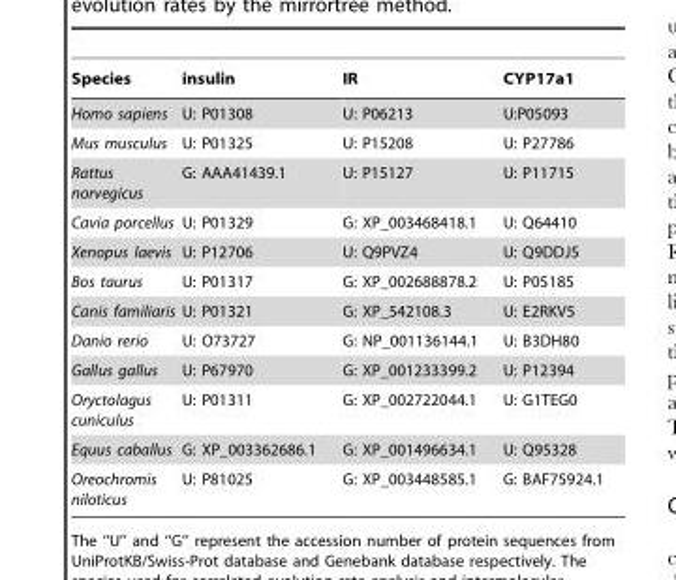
<table><thead><tr><td>Species</td><td>insulin</td><td>IR</td><td>CYP17a1</td></tr></thead><tbody><tr><td>Homo sapiens</td><td>U: P01308</td><td>U: P06213</td><td>U:P05093</td></tr><tr><td>Mus musculus</td><td>U: P01325</td><td>U: P15208</td><td>U: P27786</td></tr><tr><td>Rattus norvegicus</td><td>G: AAA41439.1</td><td>U: P15127</td><td>U: P11715</td></tr><tr><td>Cavia porcellus</td><td>U: P01329</td><td>G: XP_003468418.1</td><td>U: Q64410</td></tr><tr><td>Xenopus laevis</td><td>U: P12706</td><td>U: Q9PVZ4</td><td>U: Q9DDJ5</td></tr><tr><td>Bos taurus</td><td>U: P01317</td><td>G: XP_002688878.2</td><td>U: P05185</td></tr><tr><td>Canis familiaris</td><td>U: P01321</td><td>G: XP_542108.3</td><td>U: E2RKV5</td></tr><tr><td>Danio rerio</td><td>U: O73727</td><td>G: NP_001136144.1</td><td>U: B3DH80</td></tr><tr><td>Gallus gallus</td><td>U: P67970</td><td>G: XP_001233399.2</td><td>U: P12394</td></tr><tr><td>Oryctolagus cuniculus</td><td>U: P01311</td><td>G: XP_002722044.1</td><td>U: G1TEG0</td></tr><tr><td>Equus caballus</td><td>G: XP_003362686.1</td><td>G: XP_001496634.1</td><td>U: Q95328</td></tr><tr><td>Oreochromis niloticus</td><td>U: P81025</td><td>G: XP_003448585.1</td><td>G: BAF75924.1</td></tr></tbody></table>